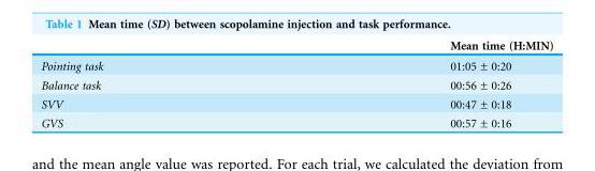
<table><thead><tr><td></td><td>Mean time (H:MIN)</td></tr></thead><tbody><tr><td>Pointing task</td><td>01:05 ± 0:20</td></tr><tr><td>Balance task</td><td>00:56 ± 0:26</td></tr><tr><td>SVV</td><td>00:47 ± 0:18</td></tr><tr><td>GVS</td><td>00:57 ± 0:16</td></tr></tbody></table>